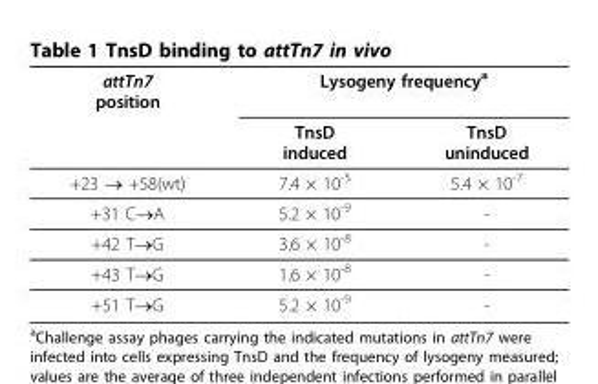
<table><thead><tr><td rowspan="2">attTn7 position</td><td colspan="2">Lysogeny frequency<sup>a</sup></td></tr><tr><td>TnsD induced</td><td>TnsD uninduced</td></tr></thead><tbody><tr><td>+23 → +58(wt)</td><td>7.4 × 10<sup>-5</sup></td><td>5.4 × 10<sup>-7</sup></td></tr><tr><td>+31 C→A</td><td>5.2 × 10<sup>-9</sup></td><td>-</td></tr><tr><td>+42 T→G</td><td>3.6 × 10<sup>-8</sup></td><td>-</td></tr><tr><td>+43 T→G</td><td>1.6 × 10<sup>-8</sup></td><td>-</td></tr><tr><td>+51 T→G</td><td>5.2 × 10<sup>-9</sup></td><td>-</td></tr></tbody></table>